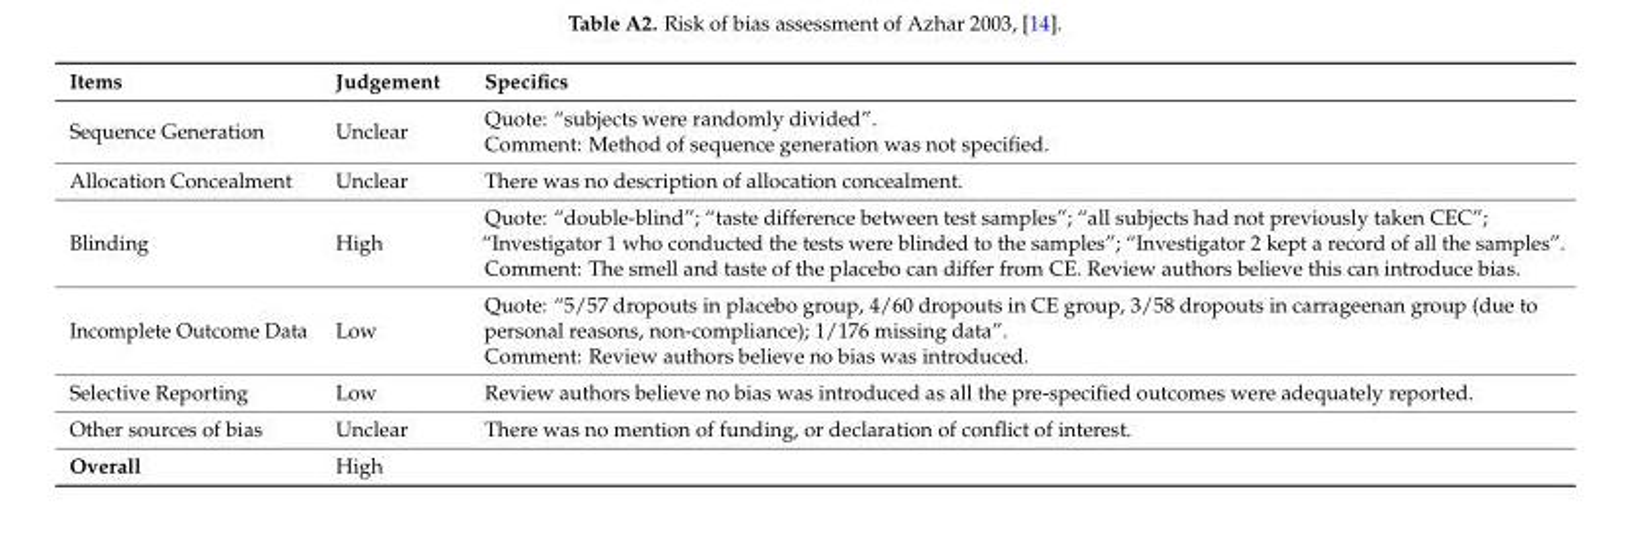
<table><thead><tr><td>Items</td><td>Judgement</td><td>Specifics</td></tr></thead><tbody><tr><td>Sequence Generation</td><td>Unclear</td><td>Quote: “subjects were randomly divided”. Comment: Method of sequence generation was not specified.</td></tr><tr><td>Allocation Concealment</td><td>Unclear</td><td>There was no description of allocation concealment.</td></tr><tr><td>Blinding</td><td>High</td><td>Quote: “double-blind”; “taste difference between test samples”; “all subjects had not previously taken CEC”; “Investigator 1 who conducted the tests were blinded to the samples”; “Investigator 2 kept a record of all the samples”. Comment: The smell and taste of the placebo can differ from CE. Review authors believe this can introduce bias.</td></tr><tr><td>Incomplete Outcome Data</td><td>Low</td><td>Quote: “5/57 dropouts in placebo group, 4/60 dropouts in CE group, 3/58 dropouts in carrageenan group (due to personal reasons, non-compliance); 1/176 missing data”. Comment: Review authors believe no bias was introduced.</td></tr><tr><td>Selective Reporting</td><td>Low</td><td>Review authors believe no bias was introduced as all the pre-specified outcomes were adequately reported.</td></tr><tr><td>Other sources of bias</td><td>Unclear</td><td>There was no mention of funding, or declaration of conflict of interest.</td></tr><tr><td>Overall</td><td>High</td><td></td></tr></tbody></table>